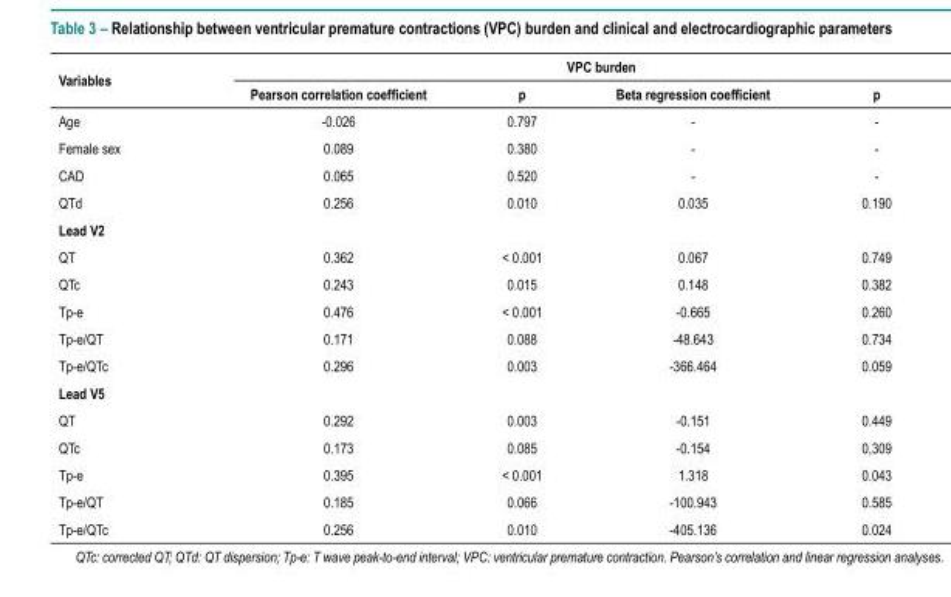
<table><thead><tr><td rowspan="2">Variables</td><td colspan="4">VPC burden</td></tr><tr><td>Pearson correlation coefficient</td><td>p</td><td>Beta regression coefficient</td><td>p</td></tr></thead><tbody><tr><td>Age</td><td>-0.026</td><td>0.797</td><td>-</td><td>-</td></tr><tr><td>Female sex</td><td>0.089</td><td>0.380</td><td>-</td><td>-</td></tr><tr><td>CAD</td><td>0.065</td><td>0.520</td><td>-</td><td>-</td></tr><tr><td>QTd</td><td>0.256</td><td>0.010</td><td>0.035</td><td>0.190</td></tr><tr><td colspan="5">Lead V2</td></tr><tr><td>QT</td><td>0.362</td><td>&lt; 0.001</td><td>0.067</td><td>0.749</td></tr><tr><td>QTc</td><td>0.243</td><td>0.015</td><td>0.148</td><td>0.382</td></tr><tr><td>Tp-e</td><td>0.476</td><td>&lt; 0.001</td><td>-0.665</td><td>0.260</td></tr><tr><td>Tp-e/QT</td><td>0.171</td><td>0.088</td><td>-48.643</td><td>0.734</td></tr><tr><td>Tp-e/QTc</td><td>0.296</td><td>0.003</td><td>-366.464</td><td>0.059</td></tr><tr><td colspan="5">Lead V5</td></tr><tr><td>QT</td><td>0.292</td><td>0.003</td><td>-0.151</td><td>0.449</td></tr><tr><td>QTc</td><td>0.173</td><td>0.085</td><td>-0.154</td><td>0,309</td></tr><tr><td>Tp-e</td><td>0.395</td><td>&lt; 0.001</td><td>1.318</td><td>0.043</td></tr><tr><td>Tp-e/QT</td><td>0.185</td><td>0.066</td><td>-100.943</td><td>0.585</td></tr><tr><td>Tp-e/QTc</td><td>0.256</td><td>0.010</td><td>-405.136</td><td>0.024</td></tr></tbody></table>